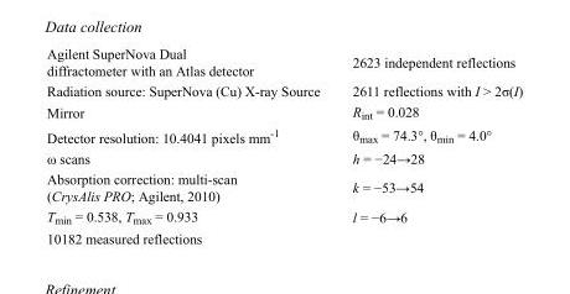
<table><tbody><tr><td>Agilent SuperNova Dual diffractometer with an Atlas detector</td><td>2623 independent reflections</td></tr><tr><td>Radiation source: SuperNova (Cu) X-ray Source</td><td>2611 reflections with I &gt; 2σ(I)</td></tr><tr><td>Mirror</td><td>R<sub>int</sub> = 0.028</td></tr><tr><td>Detector resolution: 10.4041 pixels mm<sup>-1</sup></td><td>θ<sub>max</sub> = 74.3°, θ<sub>min</sub> = 4.0°</td></tr><tr><td>ω scans</td><td>h = −24→28</td></tr><tr><td>Absorption correction: multi-scan (CrysAlis PRO; Agilent, 2010)</td><td>k = −53→54</td></tr><tr><td>T<sub>min</sub> = 0.538, T<sub>max</sub> = 0.933</td><td>l = −6→6</td></tr><tr><td>10182 measured reflections</td><td></td></tr></tbody></table>